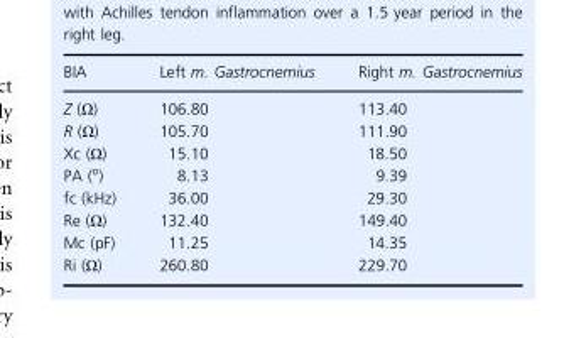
<table><thead><tr><td>BIA</td><td>Left m. Gastrocnemius</td><td>Right m. Gastrocnemius</td></tr></thead><tbody><tr><td>Z (Ω)</td><td>106.80</td><td>113.40</td></tr><tr><td>R (Ω)</td><td>105.70</td><td>111.90</td></tr><tr><td>Xc (Ω)</td><td>15.10</td><td>18.50</td></tr><tr><td>PA (<sup>o</sup>)</td><td>8.13</td><td>9.39</td></tr><tr><td>fc (kHz)</td><td>36.00</td><td>29.30</td></tr><tr><td>Re (Ω)</td><td>132.40</td><td>149.40</td></tr><tr><td>Mc (pF)</td><td>11.25</td><td>14.35</td></tr><tr><td>Ri (Ω)</td><td>260.80</td><td>229.70</td></tr></tbody></table>